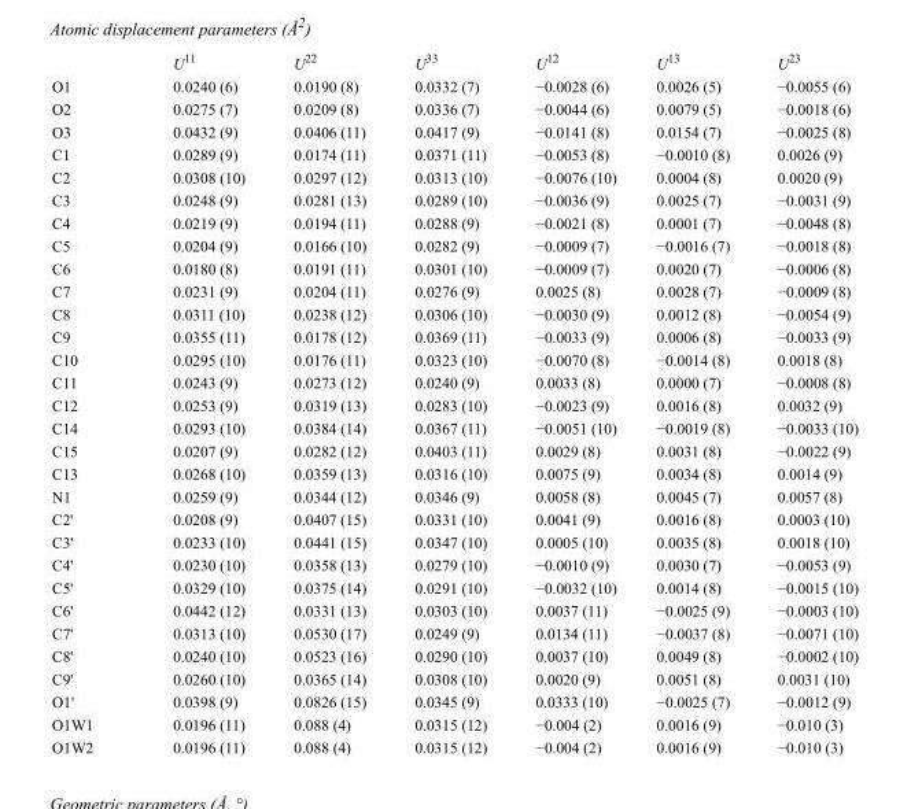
<table><thead><tr><td></td><td>U<sup>11</sup></td><td>U<sup>22</sup></td><td>U<sup>33</sup></td><td>U<sup>12</sup></td><td>U<sup>13</sup></td><td>U<sup>23</sup></td></tr></thead><tbody><tr><td>O1</td><td>0.0240 (6)</td><td>0.0190 (8)</td><td>0.0332 (7)</td><td>−0.0028 (6)</td><td>0.0026 (5)</td><td>−0.0055 (6)</td></tr><tr><td>O2</td><td>0.0275 (7)</td><td>0.0209 (8)</td><td>0.0336 (7)</td><td>−0.0044 (6)</td><td>0.0079 (5)</td><td>−0.0018 (6)</td></tr><tr><td>O3</td><td>0.0432 (9)</td><td>0.0406 (11)</td><td>0.0417 (9)</td><td>−0.0141 (8)</td><td>0.0154 (7)</td><td>−0.0025 (8)</td></tr><tr><td>C1</td><td>0.0289 (9)</td><td>0.0174 (11)</td><td>0.0371 (11)</td><td>−0.0053 (8)</td><td>−0.0010 (8)</td><td>0.0026 (9)</td></tr><tr><td>C2</td><td>0.0308 (10)</td><td>0.0297 (12)</td><td>0.0313 (10)</td><td>−0.0076 (10)</td><td>0.0004 (8)</td><td>0.0020 (9)</td></tr><tr><td>C3</td><td>0.0248 (9)</td><td>0.0281 (13)</td><td>0.0289 (10)</td><td>−0.0036 (9)</td><td>0.0025 (7)</td><td>−0.0031 (9)</td></tr><tr><td>C4</td><td>0.0219 (9)</td><td>0.0194 (11)</td><td>0.0288 (9)</td><td>−0.0021 (8)</td><td>0.0001 (7)</td><td>−0.0048 (8)</td></tr><tr><td>C5</td><td>0.0204 (9)</td><td>0.0166 (10)</td><td>0.0282 (9)</td><td>−0.0009 (7)</td><td>−0.0016 (7)</td><td>−0.0018 (8)</td></tr><tr><td>C6</td><td>0.0180 (8)</td><td>0.0191 (11)</td><td>0.0301 (10)</td><td>−0.0009 (7)</td><td>0.0020 (7)</td><td>−0.0006 (8)</td></tr><tr><td>C7</td><td>0.0231 (9)</td><td>0.0204 (11)</td><td>0.0276 (9)</td><td>0.0025 (8)</td><td>0.0028 (7)</td><td>−0.0009 (8)</td></tr><tr><td>C8</td><td>0.0311 (10)</td><td>0.0238 (12)</td><td>0.0306 (10)</td><td>−0.0030 (9)</td><td>0.0012 (8)</td><td>−0.0054 (9)</td></tr><tr><td>C9</td><td>0.0355 (11)</td><td>0.0178 (12)</td><td>0.0369 (11)</td><td>−0.0033 (9)</td><td>0.0006 (8)</td><td>−0.0033 (9)</td></tr><tr><td>C10</td><td>0.0295 (10)</td><td>0.0176 (11)</td><td>0.0323 (10)</td><td>−0.0070 (8)</td><td>−0.0014 (8)</td><td>0.0018 (8)</td></tr><tr><td>C11</td><td>0.0243 (9)</td><td>0.0273 (12)</td><td>0.0240 (9)</td><td>0.0033 (8)</td><td>0.0000 (7)</td><td>−0.0008 (8)</td></tr><tr><td>C12</td><td>0.0253 (9)</td><td>0.0319 (13)</td><td>0.0283 (10)</td><td>−0.0023 (9)</td><td>0.0016 (8)</td><td>0.0032 (9)</td></tr><tr><td>C14</td><td>0.0293 (10)</td><td>0.0384 (14)</td><td>0.0367 (11)</td><td>−0.0051 (10)</td><td>−0.0019 (8)</td><td>−0.0033 (10)</td></tr><tr><td>C15</td><td>0.0207 (9)</td><td>0.0282 (12)</td><td>0.0403 (11)</td><td>0.0029 (8)</td><td>0.0031 (8)</td><td>−0.0022 (9)</td></tr><tr><td>C13</td><td>0.0268 (10)</td><td>0.0359 (13)</td><td>0.0316 (10)</td><td>0.0075 (9)</td><td>0.0034 (8)</td><td>0.0014 (9)</td></tr><tr><td>N1</td><td>0.0259 (9)</td><td>0.0344 (12)</td><td>0.0346 (9)</td><td>0.0058 (8)</td><td>0.0045 (7)</td><td>0.0057 (8)</td></tr><tr><td>C2&#x27;</td><td>0.0208 (9)</td><td>0.0407 (15)</td><td>0.0331 (10)</td><td>0.0041 (9)</td><td>0.0016 (8)</td><td>0.0003 (10)</td></tr><tr><td>C3&#x27;</td><td>0.0233 (10)</td><td>0.0441 (15)</td><td>0.0347 (10)</td><td>0.0005 (10)</td><td>0.0035 (8)</td><td>0.0018 (10)</td></tr><tr><td>C4&#x27;</td><td>0.0230 (10)</td><td>0.0358 (13)</td><td>0.0279 (10)</td><td>−0.0010 (9)</td><td>0.0030 (7)</td><td>−0.0053 (9)</td></tr><tr><td>C5&#x27;</td><td>0.0329 (10)</td><td>0.0375 (14)</td><td>0.0291 (10)</td><td>−0.0032 (10)</td><td>0.0014 (8)</td><td>−0.0015 (10)</td></tr><tr><td>C6&#x27;</td><td>0.0442 (12)</td><td>0.0331 (13)</td><td>0.0303 (10)</td><td>0.0037 (11)</td><td>−0.0025 (9)</td><td>−0.0003 (10)</td></tr><tr><td>C7&#x27;</td><td>0.0313 (10)</td><td>0.0530 (17)</td><td>0.0249 (9)</td><td>0.0134 (11)</td><td>−0.0037 (8)</td><td>−0.0071 (10)</td></tr><tr><td>C8&#x27;</td><td>0.0240 (10)</td><td>0.0523 (16)</td><td>0.0290 (10)</td><td>0.0037 (10)</td><td>0.0049 (8)</td><td>−0.0002 (10)</td></tr><tr><td>C9&#x27;</td><td>0.0260 (10)</td><td>0.0365 (14)</td><td>0.0308 (10)</td><td>0.0020 (9)</td><td>0.0051 (8)</td><td>0.0031 (10)</td></tr><tr><td>O1&#x27;</td><td>0.0398 (9)</td><td>0.0826 (15)</td><td>0.0345 (9)</td><td>0.0333 (10)</td><td>−0.0025 (7)</td><td>−0.0012 (9)</td></tr><tr><td>O1W1</td><td>0.0196 (11)</td><td>0.088 (4)</td><td>0.0315 (12)</td><td>−0.004 (2)</td><td>0.0016 (9)</td><td>−0.010 (3)</td></tr><tr><td>O1W2</td><td>0.0196 (11)</td><td>0.088 (4)</td><td>0.0315 (12)</td><td>−0.004 (2)</td><td>0.0016 (9)</td><td>−0.010 (3)</td></tr></tbody></table>